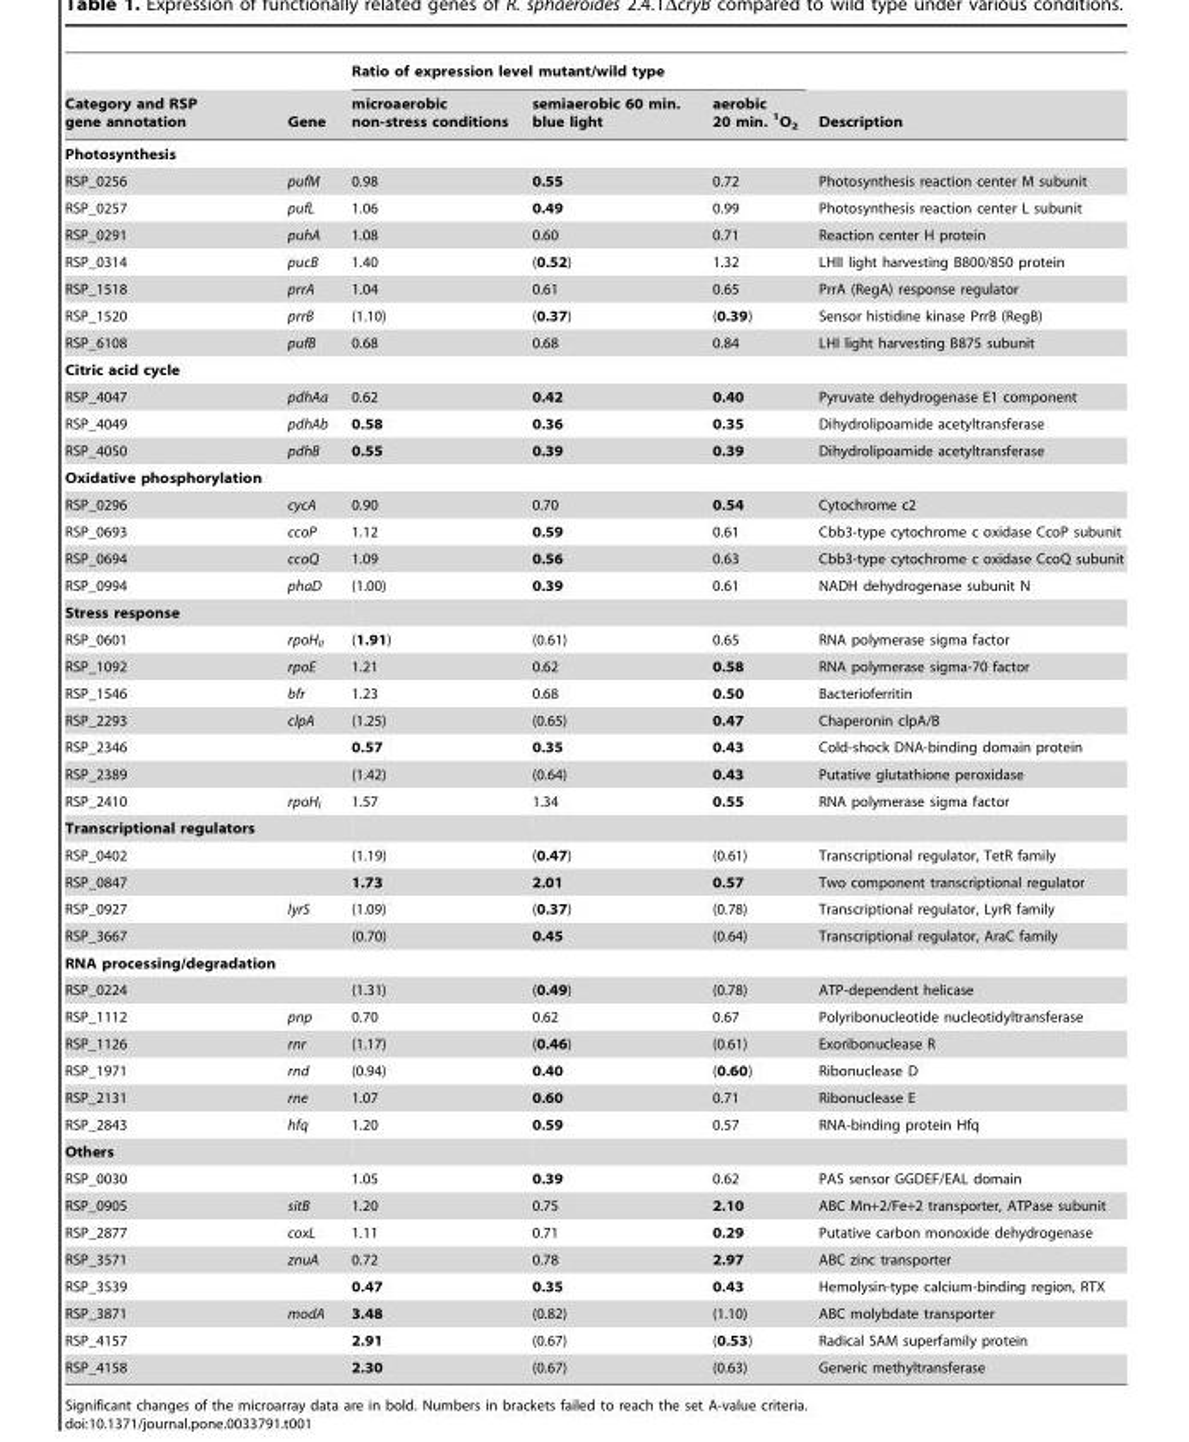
<table><thead><tr><td rowspan="2">Category and RSP gene annotation</td><td rowspan="2">Gene</td><td colspan="3">Ratio of expression level mutant/wild type</td><td rowspan="2">Description</td></tr><tr><td>microaerobic non-stress conditions</td><td>semiaerobic 60 min. blue light</td><td>aerobic 20 min. <sup>1</sup>O<sub>2</sub></td></tr></thead><tbody><tr><td colspan="6">Photosynthesis</td></tr><tr><td>RSP_0256</td><td>pufM</td><td>0.98</td><td>0.55</td><td>0.72</td><td>Photosynthesis reaction center M subunit</td></tr><tr><td>RSP_0257</td><td>pufL</td><td>1.06</td><td>0.49</td><td>0.99</td><td>Photosynthesis reaction center L subunit</td></tr><tr><td>RSP_0291</td><td>puhA</td><td>1.08</td><td>0.60</td><td>0.71</td><td>Reaction center H protein</td></tr><tr><td>RSP_0314</td><td>pucB</td><td>1.40</td><td>(0.52)</td><td>1.32</td><td>LHII light harvesting B800/850 protein</td></tr><tr><td>RSP_1518</td><td>prrA</td><td>1.04</td><td>0.61</td><td>0.65</td><td>PrrA (RegA) response regulator</td></tr><tr><td>RSP_1520</td><td>prrB</td><td>(1.10)</td><td>(0.37)</td><td>(0.39)</td><td>Sensor histidine kinase PrrB (RegB)</td></tr><tr><td>RSP_6108</td><td>pufB</td><td>0.68</td><td>0.68</td><td>0.84</td><td>LHI light harvesting B875 subunit</td></tr><tr><td colspan="6">Citric acid cycle</td></tr><tr><td>RSP_4047</td><td>pdhAa</td><td>0.62</td><td>0.42</td><td>0.40</td><td>Pyruvate dehydrogenase E1 component</td></tr><tr><td>RSP_4049</td><td>pdhAb</td><td>0.58</td><td>0.36</td><td>0.35</td><td>Dihydrolipoamide acetyltransferase</td></tr><tr><td>RSP_4050</td><td>pdhB</td><td>0.55</td><td>0.39</td><td>0.39</td><td>Dihydrolipoamide acetyltransferase</td></tr><tr><td colspan="6">Oxidative phosphorylation</td></tr><tr><td>RSP_0296</td><td>cycA</td><td>0.90</td><td>0.70</td><td>0.54</td><td>Cytochrome c2</td></tr><tr><td>RSP_0693</td><td>ccoP</td><td>1.12</td><td>0.59</td><td>0.61</td><td>Cbb3-type cytochrome c oxidase CcoP subunit</td></tr><tr><td>RSP_0694</td><td>ccoQ</td><td>1.09</td><td>0.56</td><td>0.63</td><td>Cbb3-type cytochrome c oxidase CcoQ subunit</td></tr><tr><td>RSP_0994</td><td>phaD</td><td>(1.00)</td><td>0.39</td><td>0.61</td><td>NADH dehydrogenase subunit N</td></tr><tr><td colspan="6">Stress response</td></tr><tr><td>RSP_0601</td><td>rpoH<sub>II</sub></td><td>(1.91)</td><td>(0.61)</td><td>0.65</td><td>RNA polymerase sigma factor</td></tr><tr><td>RSP_1092</td><td>rpoE</td><td>1.21</td><td>0.62</td><td>0.58</td><td>RNA polymerase sigma-70 factor</td></tr><tr><td>RSP_1546</td><td>bfr</td><td>1.23</td><td>0.68</td><td>0.50</td><td>Bacterioferritin</td></tr><tr><td>RSP_2293</td><td>clpA</td><td>(1.25)</td><td>(0.65)</td><td>0.47</td><td>Chaperonin clpA/B</td></tr><tr><td>RSP_2346</td><td></td><td>0.57</td><td>0.35</td><td>0.43</td><td>Cold-shock DNA-binding domain protein</td></tr><tr><td>RSP_2389</td><td></td><td>(1.42)</td><td>(0.64)</td><td>0.43</td><td>Putative glutathione peroxidase</td></tr><tr><td>RSP_2410</td><td>rpoH<sub>I</sub></td><td>1.57</td><td>1.34</td><td>0.55</td><td>RNA polymerase sigma factor</td></tr><tr><td colspan="6">Transcriptional regulators</td></tr><tr><td>RSP_0402</td><td></td><td>(1.19)</td><td>(0.47)</td><td>(0.61)</td><td>Transcriptional regulator, TetR family</td></tr><tr><td>RSP_0847</td><td></td><td>1.73</td><td>2.01</td><td>0.57</td><td>Two component transcriptional regulator</td></tr><tr><td>RSP_0927</td><td>lyrS</td><td>(1.09)</td><td>(0.37)</td><td>(0.78)</td><td>Transcriptional regulator, LyrR family</td></tr><tr><td>RSP_3667</td><td></td><td>(0.70)</td><td>0.45</td><td>(0.64)</td><td>Transcriptional regulator, AraC family</td></tr><tr><td colspan="6">RNA processing/degradation</td></tr><tr><td>RSP_0224</td><td></td><td>(1.31)</td><td>(0.49)</td><td>(0.78)</td><td>ATP-dependent helicase</td></tr><tr><td>RSP_1112</td><td>pnp</td><td>0.70</td><td>0.62</td><td>0.67</td><td>Polyribonucleotide nucleotidyltransferase</td></tr><tr><td>RSP_1126</td><td>rnr</td><td>(1.17)</td><td>(0.46)</td><td>(0.61)</td><td>Exoribonuclease R</td></tr><tr><td>RSP_1971</td><td>rnd</td><td>(0.94)</td><td>0.40</td><td>(0.60)</td><td>Ribonuclease D</td></tr><tr><td>RSP_2131</td><td>rne</td><td>1.07</td><td>0.60</td><td>0.71</td><td>Ribonuclease E</td></tr><tr><td>RSP_2843</td><td>hfq</td><td>1.20</td><td>0.59</td><td>0.57</td><td>RNA-binding protein Hfq</td></tr><tr><td colspan="6">Others</td></tr><tr><td>RSP_0030</td><td></td><td>1.05</td><td>0.39</td><td>0.62</td><td>PAS sensor GGDEF/EAL domain</td></tr><tr><td>RSP_0905</td><td>sitB</td><td>1.20</td><td>0.75</td><td>2.10</td><td>ABC Mn+2/Fe+2 transporter, ATPase subunit</td></tr><tr><td>RSP_2877</td><td>coxL</td><td>1.11</td><td>0.71</td><td>0.29</td><td>Putative carbon monoxide dehydrogenase</td></tr><tr><td>RSP_3571</td><td>znuA</td><td>0.72</td><td>0.78</td><td>2.97</td><td>ABC zinc transporter</td></tr><tr><td>RSP_3539</td><td></td><td>0.47</td><td>0.35</td><td>0.43</td><td>Hemolysin-type calcium-binding region, RTX</td></tr><tr><td>RSP_3871</td><td>modA</td><td>3.48</td><td>(0.82)</td><td>(1.10)</td><td>ABC molybdate transporter</td></tr><tr><td>RSP_4157</td><td></td><td>2.91</td><td>(0.67)</td><td>(0.53)</td><td>Radical SAM superfamily protein</td></tr><tr><td>RSP_4158</td><td></td><td>2.30</td><td>(0.67)</td><td>(0.63)</td><td>Generic methyltransferase</td></tr></tbody></table>